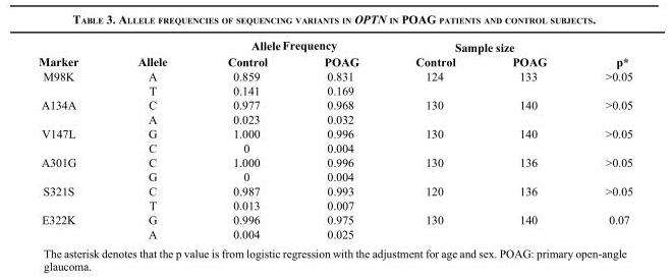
<table><thead><tr><td rowspan="2">Marker</td><td rowspan="2">Allele</td><td colspan="2">Allele Frequency</td><td colspan="2">Sample size</td><td rowspan="2">p*</td></tr><tr><td>Control</td><td>POAG</td><td>Control</td><td>POAG</td></tr></thead><tbody><tr><td rowspan="2">M98K</td><td>A</td><td>0.859</td><td>0.831</td><td>124</td><td>133</td><td>&gt;0.05</td></tr><tr><td>T</td><td>0.141</td><td>0.169</td><td></td><td></td><td></td></tr><tr><td rowspan="2">A134A</td><td>C</td><td>0.977</td><td>0.968</td><td>130</td><td>140</td><td>&gt;0.05</td></tr><tr><td>A</td><td>0.023</td><td>0.032</td><td></td><td></td><td></td></tr><tr><td rowspan="2">V147L</td><td>G</td><td>1.000</td><td>0.996</td><td>130</td><td>140</td><td>&gt;0.05</td></tr><tr><td>C</td><td>0</td><td>0.004</td><td></td><td></td><td></td></tr><tr><td rowspan="2">A301G</td><td>C</td><td>1.000</td><td>0.996</td><td>130</td><td>136</td><td>&gt;0.05</td></tr><tr><td>G</td><td>0</td><td>0.004</td><td></td><td></td><td></td></tr><tr><td rowspan="2">S321S</td><td>C</td><td>0.987</td><td>0.993</td><td>120</td><td>136</td><td>&gt;0.05</td></tr><tr><td>T</td><td>0.013</td><td>0.007</td><td></td><td></td><td></td></tr><tr><td rowspan="2">E322K</td><td>G</td><td>0.996</td><td>0.975</td><td>130</td><td>140</td><td>0.07</td></tr><tr><td>A</td><td>0.004</td><td>0.025</td><td></td><td></td><td></td></tr></tbody></table>